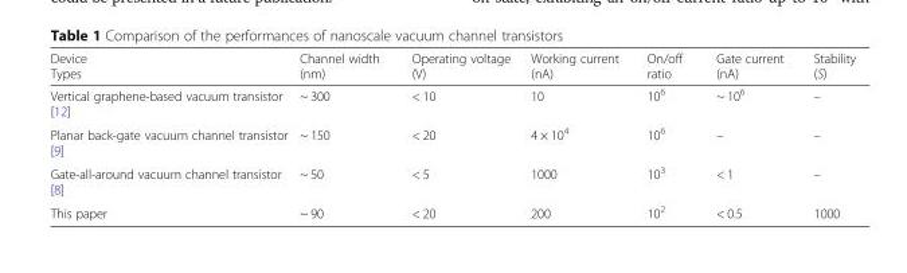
<table><thead><tr><td>Device Types</td><td>Channel width (nm)</td><td>Operating voltage (V)</td><td>Working current (nA)</td><td>On/off ratio</td><td>Gate current (nA)</td><td>Stability (S)</td></tr></thead><tbody><tr><td>Vertical graphene-based vacuum transistor [12]</td><td>~ 300</td><td>&lt; 10</td><td>10</td><td>10<sup>6</sup></td><td>~ 10<sup>6</sup></td><td>–</td></tr><tr><td>Planar back-gate vacuum channel transistor [9]</td><td>~ 150</td><td>&lt; 20</td><td>4 × 10<sup>4</sup></td><td>10<sup>6</sup></td><td>–</td><td>–</td></tr><tr><td>Gate-all-around vacuum channel transistor [8]</td><td>~ 50</td><td>&lt; 5</td><td>1000</td><td>10<sup>3</sup></td><td>&lt; 1</td><td>–</td></tr><tr><td>This paper</td><td>~ 90</td><td>&lt; 20</td><td>200</td><td>10<sup>2</sup></td><td>&lt; 0.5</td><td>1000</td></tr></tbody></table>